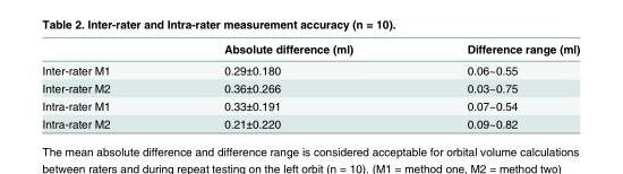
<table><thead><tr><td></td><td>Absolute difference (ml)</td><td>Difference range (ml)</td></tr></thead><tbody><tr><td>Inter-rater M1</td><td>0.29±0.180</td><td>0.06~0.55</td></tr><tr><td>Inter-rater M2</td><td>0.36±0.266</td><td>0.03~0.75</td></tr><tr><td>Intra-rater M1</td><td>0.33±0.191</td><td>0.07~0.54</td></tr><tr><td>Intra-rater M2</td><td>0.21±0.220</td><td>0.09~0.82</td></tr></tbody></table>